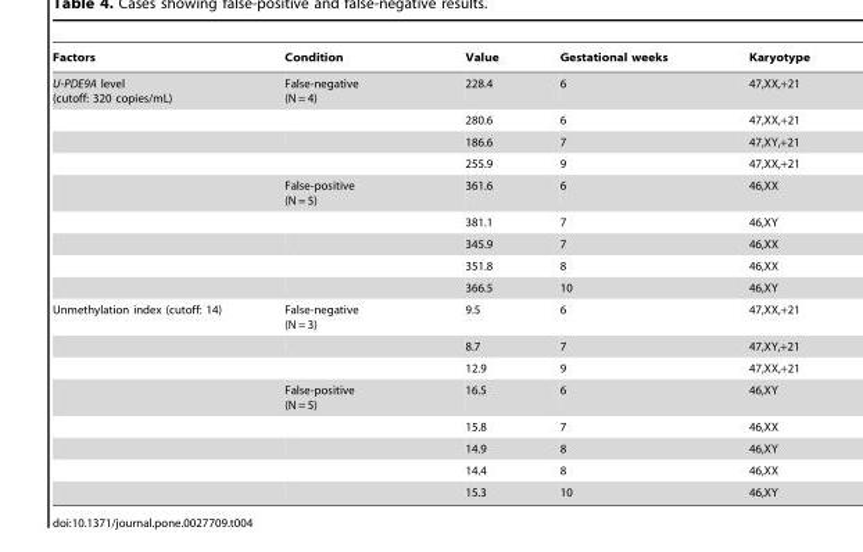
<table><thead><tr><td>Factors</td><td>Condition</td><td>Value</td><td>Gestational weeks</td><td>Karyotype</td></tr></thead><tbody><tr><td rowspan="9">U-PDE9A level (cutoff: 320 copies/mL)</td><td>False-negative (N = 4)</td><td>228.4</td><td>6</td><td>47,XX,+21</td></tr><tr><td></td><td>280.6</td><td>6</td><td>47,XX,+21</td></tr><tr><td></td><td>186.6</td><td>7</td><td>47,XY,+21</td></tr><tr><td></td><td>255.9</td><td>9</td><td>47,XX,+21</td></tr><tr><td>False-positive (N = 5)</td><td>361.6</td><td>6</td><td>46,XX</td></tr><tr><td></td><td>381.1</td><td>7</td><td>46,XY</td></tr><tr><td></td><td>345.9</td><td>7</td><td>46,XX</td></tr><tr><td></td><td>351.8</td><td>8</td><td>46,XX</td></tr><tr><td></td><td>366.5</td><td>10</td><td>46,XY</td></tr><tr><td rowspan="8">Unmethylation index (cutoff: 14)</td><td>False-negative (N = 3)</td><td>9.5</td><td>6</td><td>47,XX,+21</td></tr><tr><td></td><td>8.7</td><td>7</td><td>47,XY,+21</td></tr><tr><td></td><td>12.9</td><td>9</td><td>47,XX,+21</td></tr><tr><td>False-positive (N = 5)</td><td>16.5</td><td>6</td><td>46,XY</td></tr><tr><td></td><td>15.8</td><td>7</td><td>46,XX</td></tr><tr><td></td><td>14.9</td><td>8</td><td>46,XY</td></tr><tr><td></td><td>14.4</td><td>8</td><td>46,XX</td></tr><tr><td></td><td>15.3</td><td>10</td><td>46,XY</td></tr></tbody></table>